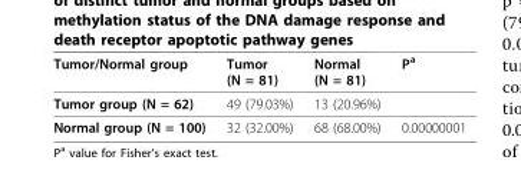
<table><thead><tr><td>Tumor/Normal group</td><td>Tumor (N = 81)</td><td>Normal (N = 81)</td><td>P<sup>a</sup></td></tr></thead><tbody><tr><td>Tumor group (N = 62)</td><td>49 (79.03%)</td><td>13 (20.96%)</td><td></td></tr><tr><td>Normal group (N = 100)</td><td>32 (32.00%)</td><td>68 (68.00%)</td><td>0.00000001</td></tr></tbody></table>